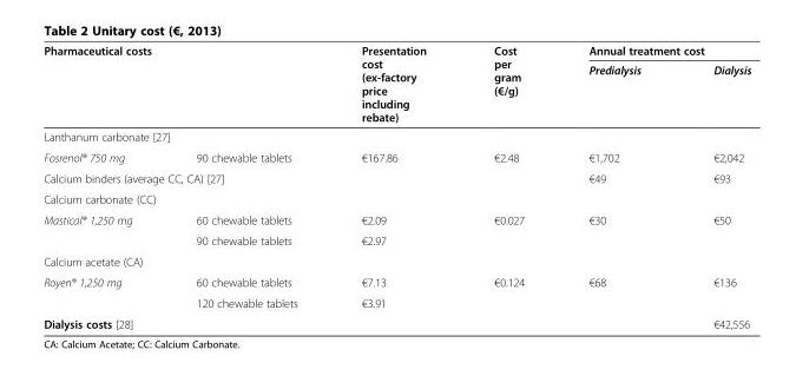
<table><thead><tr><td rowspan="3" colspan="2">Pharmaceutical costs Lanthanum carbonate [27]</td><td rowspan="4">Presentation cost (ex-factory price including rebate) €167.86</td><td rowspan="4">Cost per gram (€/g) €2.48</td><td colspan="2">Annual treatment cost</td></tr><tr><td rowspan="3">Predialysis €1,702</td><td rowspan="3">Dialysis €2,042</td></tr><tr></tr><tr><td>Fosrenol® 750 mg</td><td>90 chewable tablets</td></tr></thead><tbody><tr><td colspan="3">Calcium binders (average CC, CA) [27]</td><td></td><td>€49</td><td>€93</td></tr><tr><td colspan="6">Calcium carbonate (CC)</td></tr><tr><td rowspan="2">Mastical® 1,250 mg</td><td>60 chewable tablets</td><td>€2.09</td><td rowspan="2">€0.027</td><td rowspan="2">€30</td><td rowspan="2">€50</td></tr><tr><td>90 chewable tablets</td><td>€2.97</td></tr><tr><td colspan="6">Calcium acetate (CA)</td></tr><tr><td rowspan="2">Royen® 1,250 mg</td><td>60 chewable tablets</td><td>€7.13</td><td rowspan="2">€0.124</td><td rowspan="2">€68</td><td rowspan="2">€136</td></tr><tr><td>120 chewable tablets</td><td>€3.91</td></tr><tr><td colspan="2">Dialysis costs [28]</td><td></td><td></td><td></td><td>€42,556</td></tr></tbody></table>